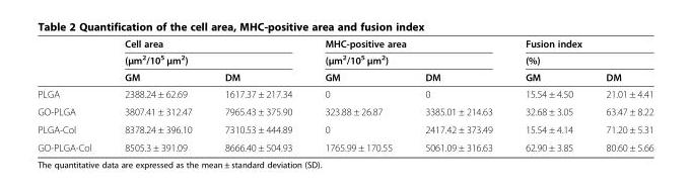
<table><thead><tr><td rowspan="3"></td><td rowspan="2" colspan="2">Cell area (μm<sup>2</sup>/10<sup>5</sup> μm<sup>2</sup>)</td><td rowspan="2" colspan="2">MHC-positive area (μm<sup>2</sup>/10<sup>5</sup> μm<sup>2</sup>)</td><td rowspan="2" colspan="2">Fusion index (%)</td></tr><tr></tr><tr><td>GM</td><td>DM</td><td>GM</td><td>DM</td><td>GM</td><td>DM</td></tr></thead><tbody><tr><td>PLGA</td><td>2388.24 ± 62.69</td><td>1617.37 ± 217.34</td><td>0</td><td>0</td><td>15.54 ± 4.50</td><td>21.01 ± 4.41</td></tr><tr><td>GO-PLGA</td><td>3807.41 ± 312.47</td><td>7965.43 ± 375.90</td><td>323.88 ± 26.87</td><td>3385.01 ± 214.63</td><td>32.68 ± 3.05</td><td>63.47 ± 8.22</td></tr><tr><td>PLGA-Col</td><td>8378.24 ± 396.10</td><td>7310.53 ± 444.89</td><td>0</td><td>2417.42 ± 373.49</td><td>15.54 ± 4.14</td><td>71.20 ± 5.31</td></tr><tr><td>GO-PLGA-Col</td><td>8505.3 ± 391.09</td><td>8666.40 ± 504.93</td><td>1765.99 ± 170.55</td><td>5061.09 ± 316.63</td><td>62.90 ± 3.85</td><td>80.60 ± 5.66</td></tr></tbody></table>